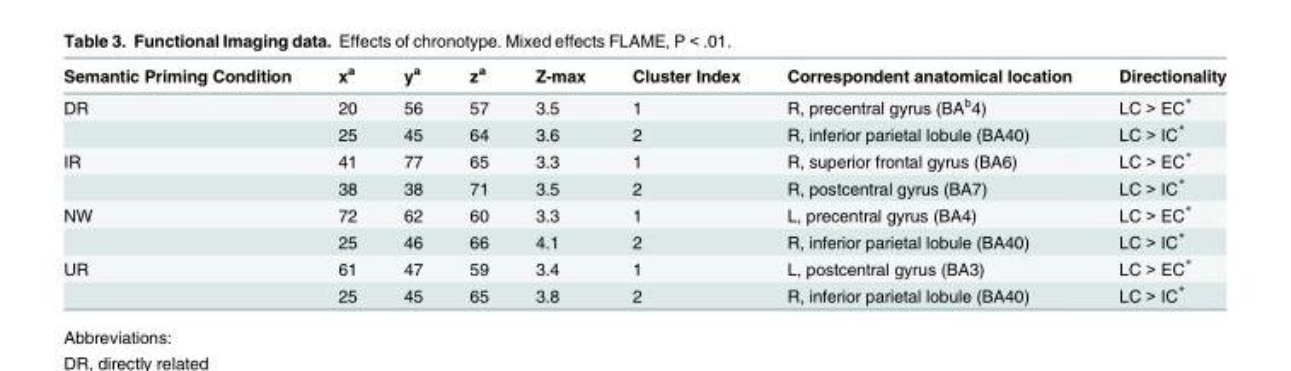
<table><thead><tr><td>Semantic Priming Condition</td><td>x<sup>a</sup></td><td>y<sup>a</sup></td><td>z<sup>a</sup></td><td>Z-max</td><td>Cluster Index</td><td>Correspondent anatomical location</td><td>Directionality</td></tr></thead><tbody><tr><td rowspan="2">DR</td><td>20</td><td>56</td><td>57</td><td>3.5</td><td>1</td><td>R, precentral gyrus (BA<sup>b</sup>4)</td><td>LC &gt; EC*</td></tr><tr><td>25</td><td>45</td><td>64</td><td>3.6</td><td>2</td><td>R, inferior parietal lobule (BA40)</td><td>LC &gt; IC*</td></tr><tr><td rowspan="2">IR</td><td>41</td><td>77</td><td>65</td><td>3.3</td><td>1</td><td>R, superior frontal gyrus (BA6)</td><td>LC &gt; EC*</td></tr><tr><td>38</td><td>38</td><td>71</td><td>3.5</td><td>2</td><td>R, postcentral gyrus (BA7)</td><td>LC &gt; IC*</td></tr><tr><td rowspan="2">NW</td><td>72</td><td>62</td><td>60</td><td>3.3</td><td>1</td><td>L, precentral gyrus (BA4)</td><td>LC &gt; EC*</td></tr><tr><td>25</td><td>46</td><td>66</td><td>4.1</td><td>2</td><td>R, inferior parietal lobule (BA40)</td><td>LC &gt; IC*</td></tr><tr><td rowspan="2">UR</td><td>61</td><td>47</td><td>59</td><td>3.4</td><td>1</td><td>L, postcentral gyrus (BA3)</td><td>LC &gt; EC*</td></tr><tr><td>25</td><td>45</td><td>65</td><td>3.8</td><td>2</td><td>R, inferior parietal lobule (BA40)</td><td>LC &gt; IC*</td></tr></tbody></table>